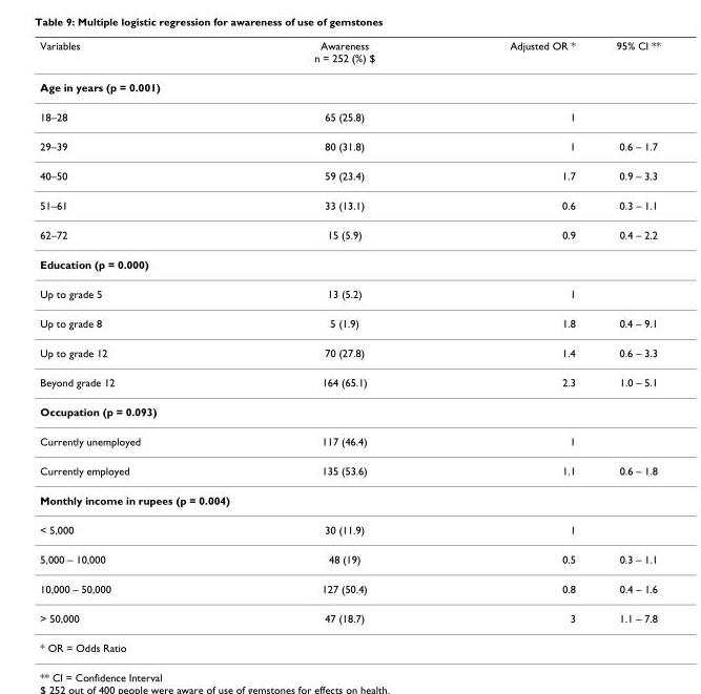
<table><thead><tr><td>Variables</td><td>Awareness n = 252 (%) $</td><td>Adjusted OR *</td><td>95% CI **</td></tr></thead><tbody><tr><td colspan="4">Age in years (p = 0.001)</td></tr><tr><td>18–28</td><td>65 (25.8)</td><td>1</td><td></td></tr><tr><td>29–39</td><td>80 (31.8)</td><td>1</td><td>0.6 – 1.7</td></tr><tr><td>40–50</td><td>59 (23.4)</td><td>1.7</td><td>0.9 – 3.3</td></tr><tr><td>51–61</td><td>33 (13.1)</td><td>0.6</td><td>0.3 – 1.1</td></tr><tr><td>62–72</td><td>15 (5.9)</td><td>0.9</td><td>0.4 – 2.2</td></tr><tr><td colspan="4">Education (p = 0.000)</td></tr><tr><td>Up to grade 5</td><td>13 (5.2)</td><td>1</td><td></td></tr><tr><td>Up to grade 8</td><td>5 (1.9)</td><td>1.8</td><td>0.4 – 9.1</td></tr><tr><td>Up to grade 12</td><td>70 (27.8)</td><td>1.4</td><td>0.6 – 3.3</td></tr><tr><td>Beyond grade 12</td><td>164 (65.1)</td><td>2.3</td><td>1.0 – 5.1</td></tr><tr><td colspan="4">Occupation (p = 0.093)</td></tr><tr><td>Currently unemployed</td><td>117 (46.4)</td><td>1</td><td></td></tr><tr><td>Currently employed</td><td>135 (53.6)</td><td>1.1</td><td>0.6 – 1.8</td></tr><tr><td colspan="4">Monthly income in rupees (p = 0.004)</td></tr><tr><td>&lt; 5,000</td><td>30 (11.9)</td><td>1</td><td></td></tr><tr><td>5,000 – 10,000</td><td>48 (19)</td><td>0.5</td><td>0.3 – 1.1</td></tr><tr><td>10,000 – 50,000</td><td>127 (50.4)</td><td>0.8</td><td>0.4 – 1.6</td></tr><tr><td>&gt; 50,000</td><td>47 (18.7)</td><td>3</td><td>1.1 – 7.8</td></tr><tr><td>* OR = Odds Ratio</td><td></td><td></td><td></td></tr></tbody></table>